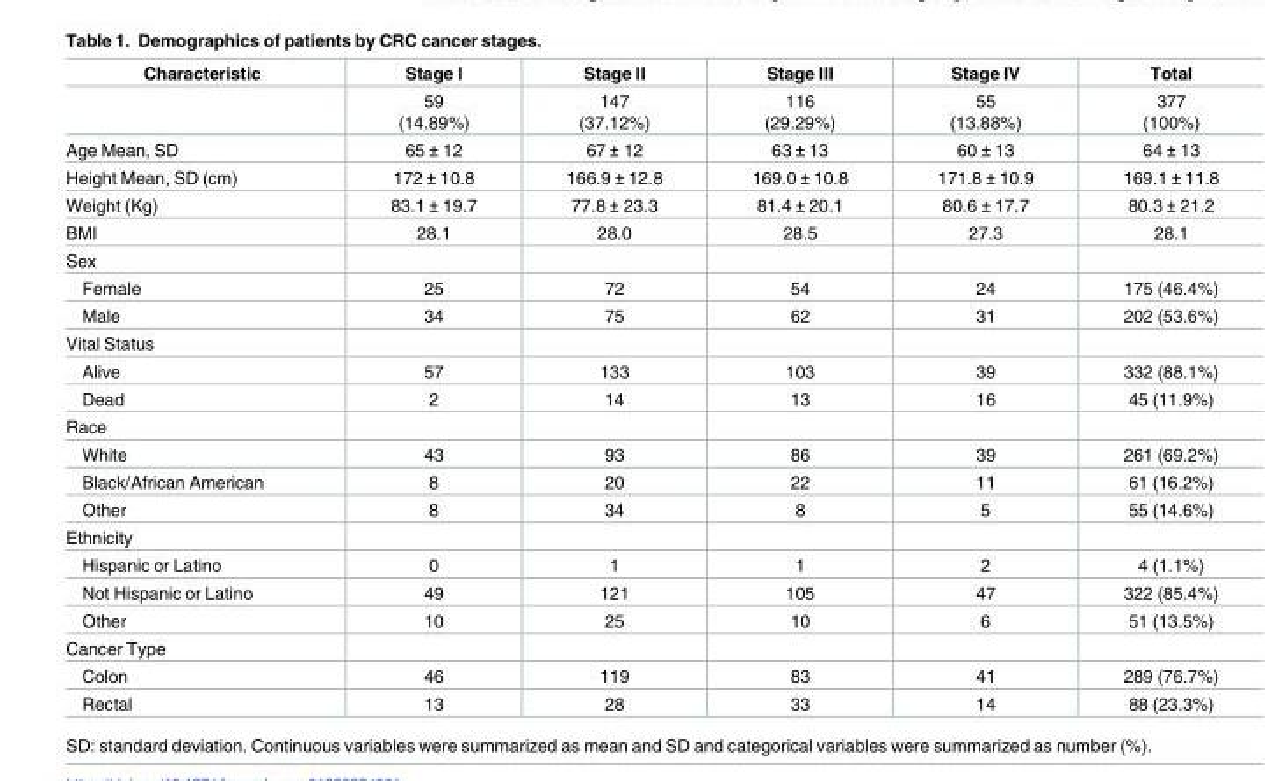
<table><thead><tr><td>Characteristic</td><td>Stage I</td><td>Stage II</td><td>Stage III</td><td>Stage IV</td><td>Total</td></tr></thead><tbody><tr><td></td><td>59 (14.89%)</td><td>147 (37.12%)</td><td>116 (29.29%)</td><td>55 (13.88%)</td><td>377 (100%)</td></tr><tr><td>Age Mean, SD</td><td>65 ± 12</td><td>67 ± 12</td><td>63 ± 13</td><td>60 ± 13</td><td>64 ± 13</td></tr><tr><td>Height Mean, SD (cm)</td><td>172 ± 10.8</td><td>166.9 ± 12.8</td><td>169.0 ± 10.8</td><td>171.8 ± 10.9</td><td>169.1 ± 11.8</td></tr><tr><td>Weight (Kg)</td><td>83.1 ± 19.7</td><td>77.8 ± 23.3</td><td>81.4 ± 20.1</td><td>80.6 ± 17.7</td><td>80.3 ± 21.2</td></tr><tr><td>BMI</td><td>28.1</td><td>28.0</td><td>28.5</td><td>27.3</td><td>28.1</td></tr><tr><td colspan="6">Sex</td></tr><tr><td>Female</td><td>25</td><td>72</td><td>54</td><td>24</td><td>175 (46.4%)</td></tr><tr><td>Male</td><td>34</td><td>75</td><td>62</td><td>31</td><td>202 (53.6%)</td></tr><tr><td colspan="6">Vital Status</td></tr><tr><td>Alive</td><td>57</td><td>133</td><td>103</td><td>39</td><td>332 (88.1%)</td></tr><tr><td>Dead</td><td>2</td><td>14</td><td>13</td><td>16</td><td>45 (11.9%)</td></tr><tr><td colspan="6">Race</td></tr><tr><td>White</td><td>43</td><td>93</td><td>86</td><td>39</td><td>261 (69.2%)</td></tr><tr><td>Black/African American</td><td>8</td><td>20</td><td>22</td><td>11</td><td>61 (16.2%)</td></tr><tr><td>Other</td><td>8</td><td>34</td><td>8</td><td>5</td><td>55 (14.6%)</td></tr><tr><td colspan="6">Ethnicity</td></tr><tr><td>Hispanic or Latino</td><td>0</td><td>1</td><td>1</td><td>2</td><td>4 (1.1%)</td></tr><tr><td>Not Hispanic or Latino</td><td>49</td><td>121</td><td>105</td><td>47</td><td>322 (85.4%)</td></tr><tr><td>Other</td><td>10</td><td>25</td><td>10</td><td>6</td><td>51 (13.5%)</td></tr><tr><td colspan="6">Cancer Type</td></tr><tr><td>Colon</td><td>46</td><td>119</td><td>83</td><td>41</td><td>289 (76.7%)</td></tr><tr><td>Rectal</td><td>13</td><td>28</td><td>33</td><td>14</td><td>88 (23.3%)</td></tr></tbody></table>